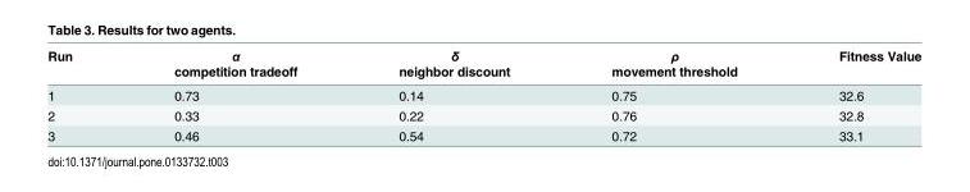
<table><thead><tr><td rowspan="2">Run</td><td rowspan="2">α competition tradeoff</td><td rowspan="2">δ neighbor discount</td><td rowspan="2">ρ movement threshold</td><td rowspan="2">Fitness Value</td></tr><tr></tr></thead><tbody><tr><td>1</td><td>0.73</td><td>0.14</td><td>0.75</td><td>32.6</td></tr><tr><td>2</td><td>0.33</td><td>0.22</td><td>0.76</td><td>32.8</td></tr><tr><td>3</td><td>0.46</td><td>0.54</td><td>0.72</td><td>33.1</td></tr></tbody></table>